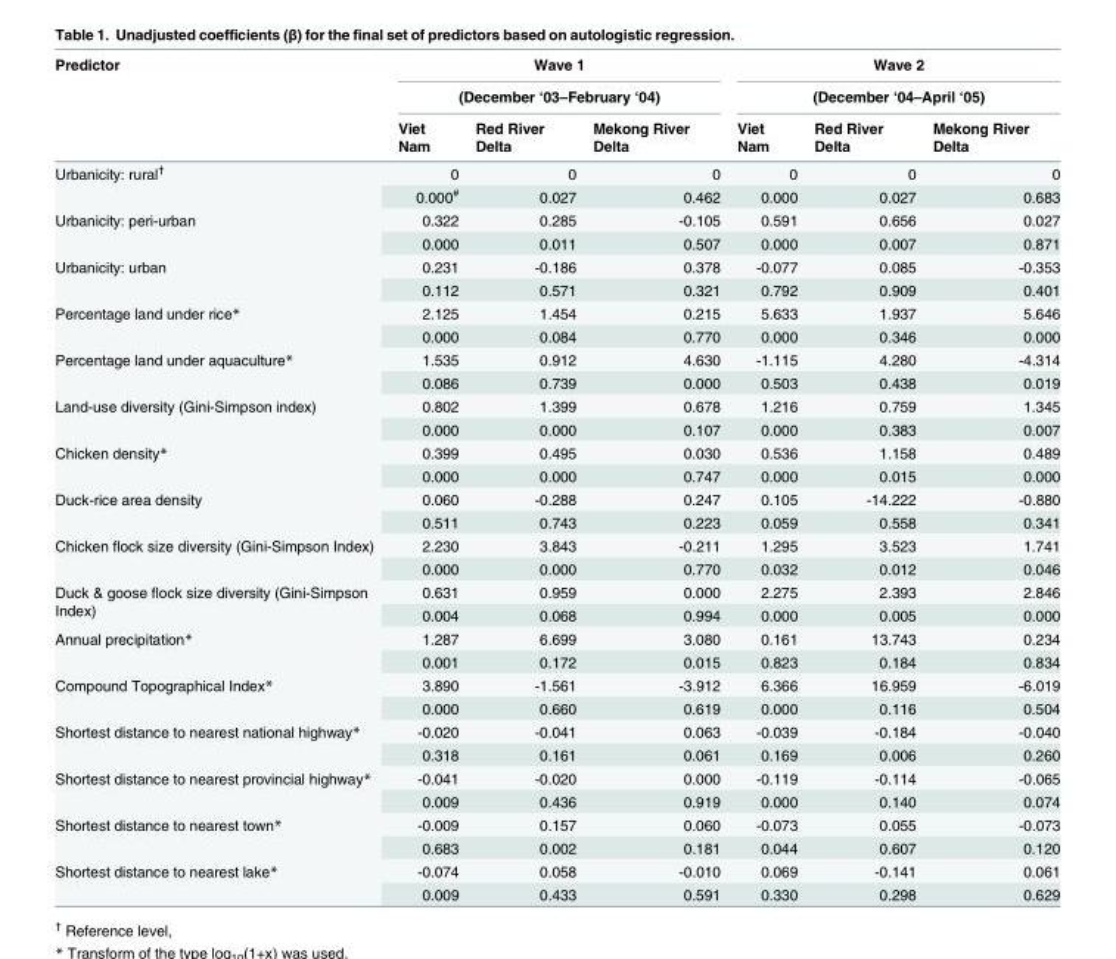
<table><thead><tr><td rowspan="3">Predictor</td><td rowspan="2" colspan="3">Wave 1 (December ‘03–February ‘04)</td><td rowspan="2" colspan="3">Wave 2 (December ‘04–April ‘05)</td></tr><tr></tr><tr><td>Viet Nam</td><td>Red River Delta</td><td>Mekong River Delta</td><td>Viet Nam</td><td>Red River Delta</td><td>Mekong River Delta</td></tr></thead><tbody><tr><td rowspan="2">Urbanicity: rural<sup>†</sup></td><td>0</td><td>0</td><td>0</td><td>0</td><td>0</td><td>0</td></tr><tr><td>0.000<sup>#</sup></td><td>0.027</td><td>0.462</td><td>0.000</td><td>0.027</td><td>0.683</td></tr><tr><td rowspan="2">Urbanicity: peri-urban</td><td>0.322</td><td>0.285</td><td>-0.105</td><td>0.591</td><td>0.656</td><td>0.027</td></tr><tr><td>0.000</td><td>0.011</td><td>0.507</td><td>0.000</td><td>0.007</td><td>0.871</td></tr><tr><td rowspan="2">Urbanicity: urban</td><td>0.231</td><td>-0.186</td><td>0.378</td><td>-0.077</td><td>0.085</td><td>-0.353</td></tr><tr><td>0.112</td><td>0.571</td><td>0.321</td><td>0.792</td><td>0.909</td><td>0.401</td></tr><tr><td rowspan="2">Percentage land under rice*</td><td>2.125</td><td>1.454</td><td>0.215</td><td>5.633</td><td>1.937</td><td>5.646</td></tr><tr><td>0.000</td><td>0.084</td><td>0.770</td><td>0.000</td><td>0.346</td><td>0.000</td></tr><tr><td rowspan="2">Percentage land under aquaculture*</td><td>1.535</td><td>0.912</td><td>4.630</td><td>-1.115</td><td>4.280</td><td>-4.314</td></tr><tr><td>0.086</td><td>0.739</td><td>0.000</td><td>0.503</td><td>0.438</td><td>0.019</td></tr><tr><td rowspan="2">Land-use diversity (Gini-Simpson index)</td><td>0.802</td><td>1.399</td><td>0.678</td><td>1.216</td><td>0.759</td><td>1.345</td></tr><tr><td>0.000</td><td>0.000</td><td>0.107</td><td>0.000</td><td>0.383</td><td>0.007</td></tr><tr><td rowspan="2">Chicken density*</td><td>0.399</td><td>0.495</td><td>0.030</td><td>0.536</td><td>1.158</td><td>0.489</td></tr><tr><td>0.000</td><td>0.000</td><td>0.747</td><td>0.000</td><td>0.015</td><td>0.000</td></tr><tr><td rowspan="2">Duck-rice area density</td><td>0.060</td><td>-0.288</td><td>0.247</td><td>0.105</td><td>-14.222</td><td>-0.880</td></tr><tr><td>0.511</td><td>0.743</td><td>0.223</td><td>0.059</td><td>0.558</td><td>0.341</td></tr><tr><td rowspan="2">Chicken flock size diversity (Gini-Simpson Index)</td><td>2.230</td><td>3.843</td><td>-0.211</td><td>1.295</td><td>3.523</td><td>1.741</td></tr><tr><td>0.000</td><td>0.000</td><td>0.770</td><td>0.032</td><td>0.012</td><td>0.046</td></tr><tr><td rowspan="2">Duck &amp; goose flock size diversity (Gini-Simpson Index)</td><td>0.631</td><td>0.959</td><td>0.000</td><td>2.275</td><td>2.393</td><td>2.846</td></tr><tr><td>0.004</td><td>0.068</td><td>0.994</td><td>0.000</td><td>0.005</td><td>0.000</td></tr><tr><td rowspan="2">Annual precipitation*</td><td>1.287</td><td>6.699</td><td>3.080</td><td>0.161</td><td>13.743</td><td>0.234</td></tr><tr><td>0.001</td><td>0.172</td><td>0.015</td><td>0.823</td><td>0.184</td><td>0.834</td></tr><tr><td rowspan="2">Compound Topographical Index*</td><td>3.890</td><td>-1.561</td><td>-3.912</td><td>6.366</td><td>16.959</td><td>-6.019</td></tr><tr><td>0.000</td><td>0.660</td><td>0.619</td><td>0.000</td><td>0.116</td><td>0.504</td></tr><tr><td rowspan="2">Shortest distance to nearest national highway*</td><td>-0.020</td><td>-0.041</td><td>0.063</td><td>-0.039</td><td>-0.184</td><td>-0.040</td></tr><tr><td>0.318</td><td>0.161</td><td>0.061</td><td>0.169</td><td>0.006</td><td>0.260</td></tr><tr><td rowspan="2">Shortest distance to nearest provincial highway*</td><td>-0.041</td><td>-0.020</td><td>0.000</td><td>-0.119</td><td>-0.114</td><td>-0.065</td></tr><tr><td>0.009</td><td>0.436</td><td>0.919</td><td>0.000</td><td>0.140</td><td>0.074</td></tr><tr><td rowspan="2">Shortest distance to nearest town*</td><td>-0.009</td><td>0.157</td><td>0.060</td><td>-0.073</td><td>0.055</td><td>-0.073</td></tr><tr><td>0.683</td><td>0.002</td><td>0.181</td><td>0.044</td><td>0.607</td><td>0.120</td></tr><tr><td rowspan="2">Shortest distance to nearest lake*</td><td>-0.074</td><td>0.058</td><td>-0.010</td><td>0.069</td><td>-0.141</td><td>0.061</td></tr><tr><td>0.009</td><td>0.433</td><td>0.591</td><td>0.330</td><td>0.298</td><td>0.629</td></tr></tbody></table>